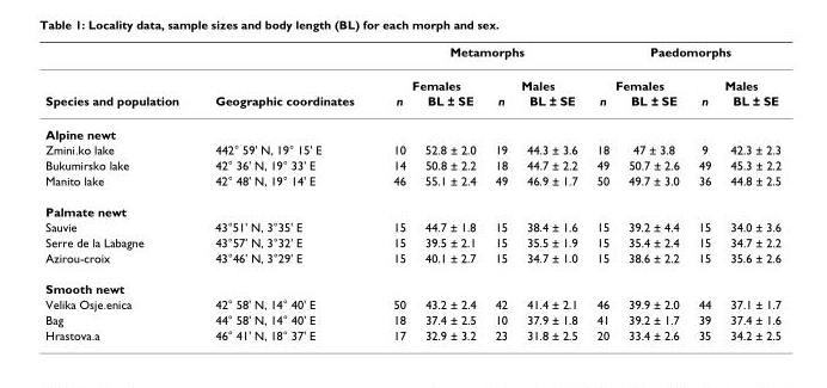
<table><thead><tr><td rowspan="3">Species and population</td><td rowspan="3">Geographic coordinates</td><td colspan="4">Metamorphs</td><td colspan="4">Paedomorphs</td></tr><tr><td colspan="2">Females</td><td colspan="2">Males</td><td colspan="2">Females</td><td colspan="2">Males</td></tr><tr><td>n</td><td>BL ± SE</td><td>n</td><td>BL ± SE</td><td>n</td><td>BL ± SE</td><td>n</td><td>BL ± SE</td></tr></thead><tbody><tr><td colspan="10">Alpine newt</td></tr><tr><td>Zmini.ko lake</td><td>442° 59&#x27; N, 19° 15&#x27; E</td><td>10</td><td>52.8 ± 2.0</td><td>19</td><td>44.3 ± 3.6</td><td>18</td><td>47 ± 3.8</td><td>9</td><td>42.3 ± 2.3</td></tr><tr><td>Bukumirsko lake</td><td>42° 36&#x27; N, 19° 33&#x27; E</td><td>14</td><td>50.8 ± 2.2</td><td>18</td><td>44.7 ± 2.2</td><td>49</td><td>50.7 ± 2.6</td><td>49</td><td>45.3 ± 2.2</td></tr><tr><td>Manito lake</td><td>42° 48&#x27; N, 19° 14&#x27; E</td><td>46</td><td>55.1 ± 2.4</td><td>49</td><td>46.9 ± 1.7</td><td>50</td><td>49.7 ± 3.0</td><td>36</td><td>44.8 ± 2.5</td></tr><tr><td colspan="10">Palmate newt</td></tr><tr><td>Sauvie</td><td>43°51&#x27; N, 3°35&#x27; E</td><td>15</td><td>44.7 ± 1.8</td><td>15</td><td>38.4 ± 1.6</td><td>15</td><td>39.2 ± 4.4</td><td>15</td><td>34.0 ± 3.6</td></tr><tr><td>Serre de la Labagne</td><td>43°57&#x27; N, 3°32&#x27; E</td><td>15</td><td>39.5 ± 2.1</td><td>15</td><td>35.5 ± 1.9</td><td>15</td><td>35.4 ± 2.4</td><td>15</td><td>34.7 ± 2.2</td></tr><tr><td>Azirou-croix</td><td>43°46&#x27; N, 3°29&#x27; E</td><td>15</td><td>40.1 ± 2.7</td><td>15</td><td>34.7 ± 1.0</td><td>15</td><td>38.6 ± 2.2</td><td>15</td><td>35.6 ± 2.6</td></tr><tr><td colspan="10">Smooth newt</td></tr><tr><td>Velika Osje.enica</td><td>42° 58&#x27; N, 14° 40&#x27; E</td><td>50</td><td>43.2 ± 2.4</td><td>42</td><td>41.4 ± 2.1</td><td>46</td><td>39.9 ± 2.0</td><td>44</td><td>37.1 ± 1.7</td></tr><tr><td>Bag</td><td>44° 58&#x27; N, 14° 40&#x27; E</td><td>18</td><td>37.4 ± 2.5</td><td>10</td><td>37.9 ± 1.8</td><td>41</td><td>39.2 ± 1.7</td><td>39</td><td>37.4 ± 1.6</td></tr><tr><td>Hrastova.a</td><td>46° 41&#x27; N, 18° 37&#x27; E</td><td>17</td><td>32.9 ± 3.2</td><td>23</td><td>31.8 ± 2.5</td><td>20</td><td>33.4 ± 2.6</td><td>35</td><td>34.2 ± 2.5</td></tr></tbody></table>